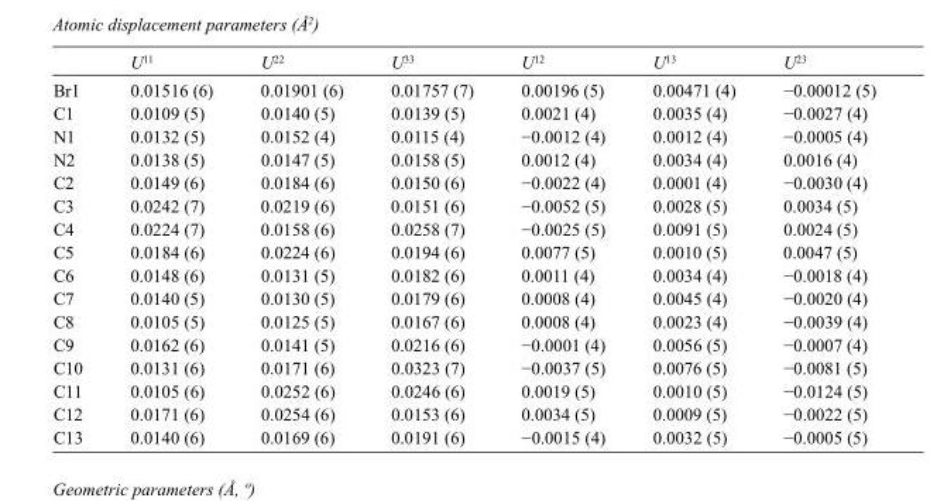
<table><thead><tr><td></td><td>U<sup>11</sup></td><td>U<sup>22</sup></td><td>U<sup>33</sup></td><td>U<sup>12</sup></td><td>U<sup>13</sup></td><td>U<sup>23</sup></td></tr></thead><tbody><tr><td>Br1</td><td>0.01516 (6)</td><td>0.01901 (6)</td><td>0.01757 (7)</td><td>0.00196 (5)</td><td>0.00471 (4)</td><td>−0.00012 (5)</td></tr><tr><td>C1</td><td>0.0109 (5)</td><td>0.0140 (5)</td><td>0.0139 (5)</td><td>0.0021 (4)</td><td>0.0035 (4)</td><td>−0.0027 (4)</td></tr><tr><td>N1</td><td>0.0132 (5)</td><td>0.0152 (4)</td><td>0.0115 (4)</td><td>−0.0012 (4)</td><td>0.0012 (4)</td><td>−0.0005 (4)</td></tr><tr><td>N2</td><td>0.0138 (5)</td><td>0.0147 (5)</td><td>0.0158 (5)</td><td>0.0012 (4)</td><td>0.0034 (4)</td><td>0.0016 (4)</td></tr><tr><td>C2</td><td>0.0149 (6)</td><td>0.0184 (6)</td><td>0.0150 (6)</td><td>−0.0022 (4)</td><td>0.0001 (4)</td><td>−0.0030 (4)</td></tr><tr><td>C3</td><td>0.0242 (7)</td><td>0.0219 (6)</td><td>0.0151 (6)</td><td>−0.0052 (5)</td><td>0.0028 (5)</td><td>0.0034 (5)</td></tr><tr><td>C4</td><td>0.0224 (7)</td><td>0.0158 (6)</td><td>0.0258 (7)</td><td>−0.0025 (5)</td><td>0.0091 (5)</td><td>0.0024 (5)</td></tr><tr><td>C5</td><td>0.0184 (6)</td><td>0.0224 (6)</td><td>0.0194 (6)</td><td>0.0077 (5)</td><td>0.0010 (5)</td><td>0.0047 (5)</td></tr><tr><td>C6</td><td>0.0148 (6)</td><td>0.0131 (5)</td><td>0.0182 (6)</td><td>0.0011 (4)</td><td>0.0034 (4)</td><td>−0.0018 (4)</td></tr><tr><td>C7</td><td>0.0140 (5)</td><td>0.0130 (5)</td><td>0.0179 (6)</td><td>0.0008 (4)</td><td>0.0045 (4)</td><td>−0.0020 (4)</td></tr><tr><td>C8</td><td>0.0105 (5)</td><td>0.0125 (5)</td><td>0.0167 (6)</td><td>0.0008 (4)</td><td>0.0023 (4)</td><td>−0.0039 (4)</td></tr><tr><td>C9</td><td>0.0162 (6)</td><td>0.0141 (5)</td><td>0.0216 (6)</td><td>−0.0001 (4)</td><td>0.0056 (5)</td><td>−0.0007 (4)</td></tr><tr><td>C10</td><td>0.0131 (6)</td><td>0.0171 (6)</td><td>0.0323 (7)</td><td>−0.0037 (5)</td><td>0.0076 (5)</td><td>−0.0081 (5)</td></tr><tr><td>C11</td><td>0.0105 (6)</td><td>0.0252 (6)</td><td>0.0246 (6)</td><td>0.0019 (5)</td><td>0.0010 (5)</td><td>−0.0124 (5)</td></tr><tr><td>C12</td><td>0.0171 (6)</td><td>0.0254 (6)</td><td>0.0153 (6)</td><td>0.0034 (5)</td><td>0.0009 (5)</td><td>−0.0022 (5)</td></tr><tr><td>C13</td><td>0.0140 (6)</td><td>0.0169 (6)</td><td>0.0191 (6)</td><td>−0.0015 (4)</td><td>0.0032 (5)</td><td>−0.0005 (5)</td></tr></tbody></table>